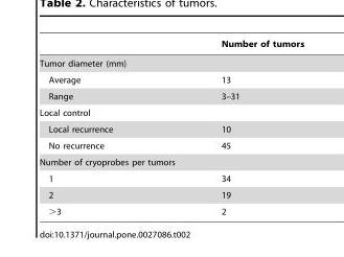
<table><thead><tr><td></td><td>Number of tumors</td></tr></thead><tbody><tr><td colspan="2">Tumor diameter (mm)</td></tr><tr><td>Average</td><td>13</td></tr><tr><td>Range</td><td>3–31</td></tr><tr><td colspan="2">Local control</td></tr><tr><td>Local recurrence</td><td>10</td></tr><tr><td>No recurrence</td><td>45</td></tr><tr><td colspan="2">Number of cryoprobes per tumors</td></tr><tr><td>1</td><td>34</td></tr><tr><td>2</td><td>19</td></tr><tr><td>&gt;3</td><td>2</td></tr></tbody></table>